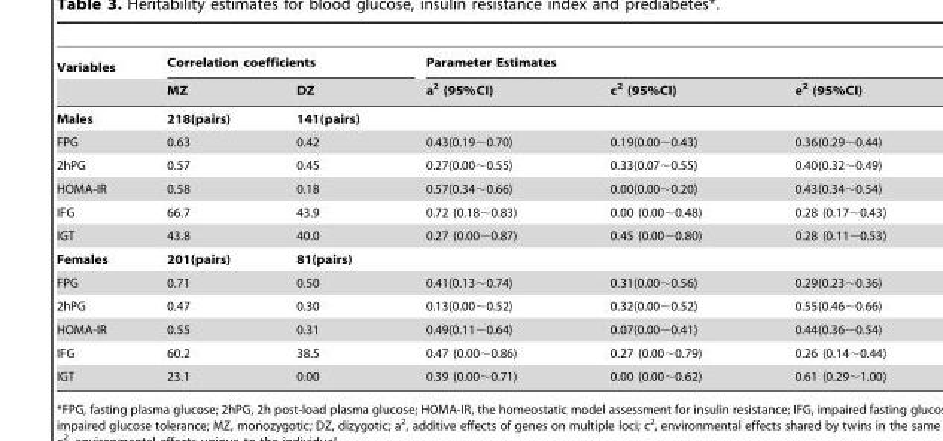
<table><thead><tr><td rowspan="2">Variables</td><td colspan="2">Correlation coefficients</td><td colspan="3">Parameter Estimates</td></tr><tr><td>MZ</td><td>DZ</td><td>a<sup>2</sup> (95%CI)</td><td>c<sup>2</sup> (95%CI)</td><td>e<sup>2</sup> (95%CI)</td></tr></thead><tbody><tr><td>Males</td><td>218(pairs)</td><td>141(pairs)</td><td></td><td></td><td></td></tr><tr><td>FPG</td><td>0.63</td><td>0.42</td><td>0.43(0.19∼0.70)</td><td>0.19(0.00∼0.43)</td><td>0.36(0.29∼0.44)</td></tr><tr><td>2hPG</td><td>0.57</td><td>0.45</td><td>0.27(0.00∼0.55)</td><td>0.33(0.07∼0.55)</td><td>0.40(0.32∼0.49)</td></tr><tr><td>HOMA-IR</td><td>0.58</td><td>0.18</td><td>0.57(0.34∼0.66)</td><td>0.00(0.00∼0.20)</td><td>0.43(0.34∼0.54)</td></tr><tr><td>IFG</td><td>66.7</td><td>43.9</td><td>0.72 (0.18∼0.83)</td><td>0.00 (0.00∼0.48)</td><td>0.28 (0.17∼0.43)</td></tr><tr><td>IGT</td><td>43.8</td><td>40.0</td><td>0.27 (0.00∼0.87)</td><td>0.45 (0.00∼0.80)</td><td>0.28 (0.11∼0.53)</td></tr><tr><td>Females</td><td>201(pairs)</td><td>81(pairs)</td><td></td><td></td><td></td></tr><tr><td>FPG</td><td>0.71</td><td>0.50</td><td>0.41(0.13∼0.74)</td><td>0.31(0.00∼0.56)</td><td>0.29(0.23∼0.36)</td></tr><tr><td>2hPG</td><td>0.47</td><td>0.30</td><td>0.13(0.00∼0.52)</td><td>0.32(0.00∼0.52)</td><td>0.55(0.46∼0.66)</td></tr><tr><td>HOMA-IR</td><td>0.55</td><td>0.31</td><td>0.49(0.11∼0.64)</td><td>0.07(0.00∼0.41)</td><td>0.44(0.36∼0.54)</td></tr><tr><td>IFG</td><td>60.2</td><td>38.5</td><td>0.47 (0.00∼0.86)</td><td>0.27 (0.00∼0.79)</td><td>0.26 (0.14∼0.44)</td></tr><tr><td>IGT</td><td>23.1</td><td>0.00</td><td>0.39 (0.00∼0.71)</td><td>0.00 (0.00∼0.62)</td><td>0.61 (0.29∼1.00)</td></tr></tbody></table>